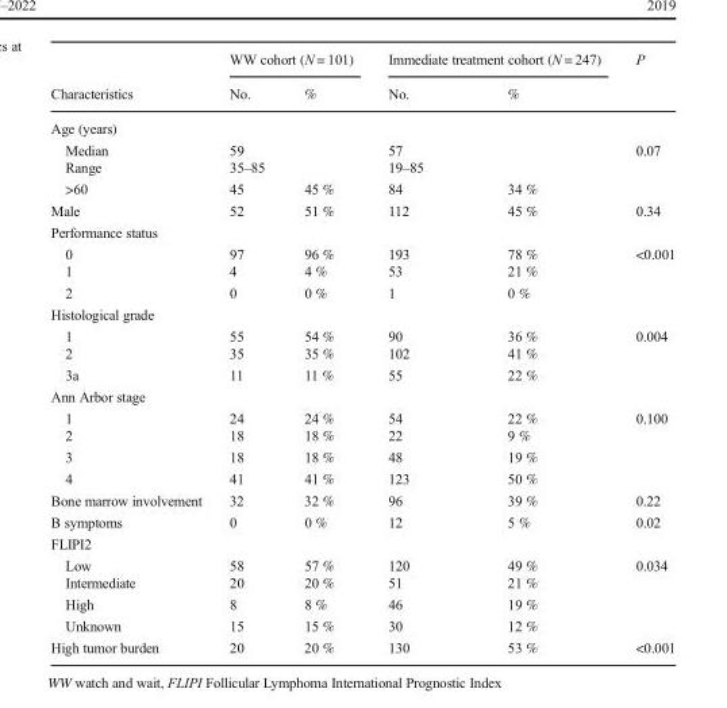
<table><thead><tr><td rowspan="2">Characteristics</td><td colspan="2">WW cohort (N = 101)</td><td colspan="2">Immediate treatment cohort (N = 247)</td><td rowspan="2">P</td></tr><tr><td>No.</td><td>%</td><td>No.</td><td>%</td></tr></thead><tbody><tr><td colspan="6">Age (years)</td></tr><tr><td>Median</td><td colspan="2">59</td><td colspan="2">57</td><td rowspan="3">0.07</td></tr><tr><td>Range</td><td colspan="2">35–85</td><td colspan="2">19–85</td></tr><tr><td>&gt;60</td><td>45</td><td>45 %</td><td>84</td><td>34 %</td></tr><tr><td>Male</td><td>52</td><td>51 %</td><td>112</td><td>45 %</td><td>0.34</td></tr><tr><td colspan="6">Performance status</td></tr><tr><td>0</td><td>97</td><td>96 %</td><td>193</td><td>78 %</td><td rowspan="3">&lt;0.001</td></tr><tr><td>1</td><td>4</td><td>4 %</td><td>53</td><td>21 %</td></tr><tr><td>2</td><td>0</td><td>0 %</td><td>1</td><td>0 %</td></tr><tr><td colspan="6">Histological grade</td></tr><tr><td>1</td><td>55</td><td>54 %</td><td>90</td><td>36 %</td><td rowspan="3">0.004</td></tr><tr><td>2</td><td>35</td><td>35 %</td><td>102</td><td>41 %</td></tr><tr><td>3a</td><td>11</td><td>11 %</td><td>55</td><td>22 %</td></tr><tr><td colspan="6">Ann Arbor stage</td></tr><tr><td>1</td><td>24</td><td>24 %</td><td>54</td><td>22 %</td><td rowspan="4">0.100</td></tr><tr><td>2</td><td>18</td><td>18 %</td><td>22</td><td>9 %</td></tr><tr><td>3</td><td>18</td><td>18 %</td><td>48</td><td>19 %</td></tr><tr><td>4</td><td>41</td><td>41 %</td><td>123</td><td>50 %</td></tr><tr><td>Bone marrow involvement</td><td>32</td><td>32 %</td><td>96</td><td>39 %</td><td>0.22</td></tr><tr><td>B symptoms</td><td>0</td><td>0 %</td><td>12</td><td>5 %</td><td>0.02</td></tr><tr><td colspan="6">FLIPI2</td></tr><tr><td>Low</td><td>58</td><td>57 %</td><td>120</td><td>49 %</td><td rowspan="4">0.034</td></tr><tr><td>Intermediate</td><td>20</td><td>20 %</td><td>51</td><td>21 %</td></tr><tr><td>High</td><td>8</td><td>8 %</td><td>46</td><td>19 %</td></tr><tr><td>Unknown</td><td>15</td><td>15 %</td><td>30</td><td>12 %</td></tr><tr><td>High tumor burden</td><td>20</td><td>20 %</td><td>130</td><td>53 %</td><td>&lt;0.001</td></tr></tbody></table>